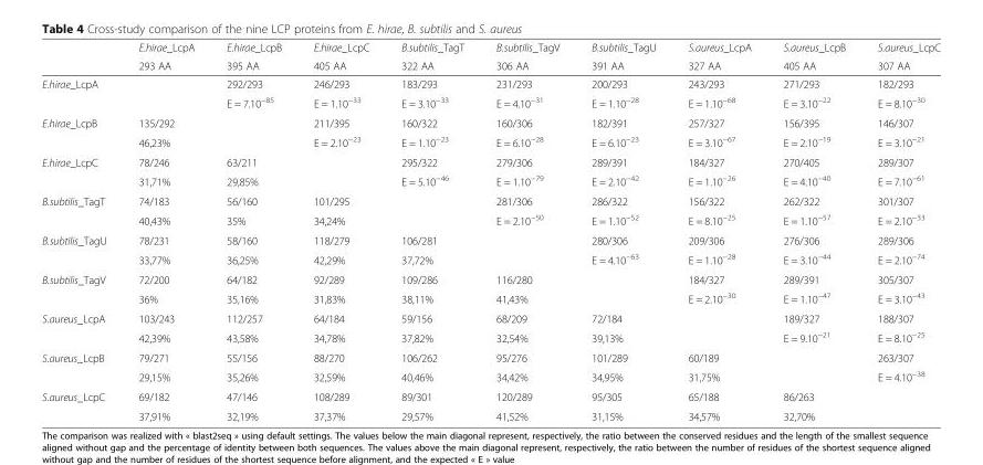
<table><thead><tr><td rowspan="2"></td><td rowspan="2">E.hirae_LcpA 293 AA</td><td rowspan="2">E.hirae_LcpB 395 AA</td><td rowspan="2">E.hirae_LcpC 405 AA</td><td rowspan="2">B.subtilis_TagT 322 AA</td><td rowspan="2">B.subtilis_TagV 306 AA</td><td rowspan="2">B.subtilis_TagU 391 AA</td><td rowspan="2">S.aureus_LcpA 327 AA</td><td rowspan="2">S.aureus_LcpB 405 AA</td><td rowspan="2">S.aureus_LcpC 307 AA</td></tr><tr></tr></thead><tbody><tr><td rowspan="2">E.hirae_LcpA</td><td rowspan="2"></td><td>292/293</td><td>246/293</td><td>183/293</td><td>231/293</td><td>200/293</td><td>243/293</td><td>271/293</td><td>182/293</td></tr><tr><td>E = 7.10<sup>−85</sup></td><td>E = 1.10<sup>−33</sup></td><td>E = 3.10<sup>−33</sup></td><td>E = 4.10<sup>−31</sup></td><td>E = 1.10<sup>−28</sup></td><td>E = 1.10<sup>−68</sup></td><td>E = 3.10<sup>−22</sup></td><td>E = 8.10<sup>−30</sup></td></tr><tr><td rowspan="2">E.hirae_LcpB</td><td>135/292</td><td rowspan="2"></td><td>211/395</td><td>160/322</td><td>160/306</td><td>182/391</td><td>257/327</td><td>156/395</td><td>146/307</td></tr><tr><td>46,23%</td><td>E = 2.10<sup>−23</sup></td><td>E = 1.10<sup>−23</sup></td><td>E = 6.10<sup>−28</sup></td><td>E = 6.10<sup>−23</sup></td><td>E = 3.10<sup>−67</sup></td><td>E = 2.10<sup>−19</sup></td><td>E = 3.10<sup>−21</sup></td></tr><tr><td rowspan="2">E.hirae_LcpC</td><td>78/246</td><td>63/211</td><td rowspan="2"></td><td>295/322</td><td>279/306</td><td>289/391</td><td>184/327</td><td>270/405</td><td>289/307</td></tr><tr><td>31,71%</td><td>29,85%</td><td>E = 5.10<sup>−46</sup></td><td>E = 1.10<sup>−79</sup></td><td>E = 2.10<sup>−42</sup></td><td>E = 1.10<sup>−26</sup></td><td>E = 4.10<sup>−40</sup></td><td>E = 7.10<sup>−61</sup></td></tr><tr><td rowspan="2">B.subtilis_TagT</td><td>74/183</td><td>56/160</td><td>101/295</td><td rowspan="2"></td><td>281/306</td><td>286/322</td><td>156/322</td><td>262/322</td><td>301/307</td></tr><tr><td>40,43%</td><td>35%</td><td>34,24%</td><td>E = 2.10<sup>−50</sup></td><td>E = 1.10<sup>−52</sup></td><td>E = 8.10<sup>−25</sup></td><td>E = 1.10<sup>−57</sup></td><td>E = 2.10<sup>−33</sup></td></tr><tr><td rowspan="2">B.subtilis_TagU</td><td>78/231</td><td>58/160</td><td>118/279</td><td>106/281</td><td rowspan="2"></td><td>280/306</td><td>209/306</td><td>276/306</td><td>289/306</td></tr><tr><td>33,77%</td><td>36,25%</td><td>42,29%</td><td>37,72%</td><td>E = 4.10<sup>−63</sup></td><td>E = 1.10<sup>−28</sup></td><td>E = 3.10<sup>−44</sup></td><td>E = 2.10<sup>−74</sup></td></tr><tr><td rowspan="2">B.subtilis_TagV</td><td>72/200</td><td>64/182</td><td>92/289</td><td>109/286</td><td>116/280</td><td rowspan="2"></td><td>184/327</td><td>289/391</td><td>305/307</td></tr><tr><td>36%</td><td>35,16%</td><td>31,83%</td><td>38,11%</td><td>41,43%</td><td>E = 2.10<sup>−30</sup></td><td>E = 1.10<sup>−47</sup></td><td>E = 3.10<sup>−43</sup></td></tr><tr><td rowspan="2">S.aureus_LcpA</td><td>103/243</td><td>112/257</td><td>64/184</td><td>59/156</td><td>68/209</td><td>72/184</td><td rowspan="2"></td><td>189/327</td><td>188/307</td></tr><tr><td>42,39%</td><td>43,58%</td><td>34,78%</td><td>37,82%</td><td>32,54%</td><td>39,13%</td><td>E = 9.10<sup>−21</sup></td><td>E = 8.10<sup>−25</sup></td></tr><tr><td rowspan="2">S.aureus_LcpB</td><td>79/271</td><td>55/156</td><td>88/270</td><td>106/262</td><td>95/276</td><td>101/289</td><td>60/189</td><td rowspan="2"></td><td>263/307</td></tr><tr><td>29,15%</td><td>35,26%</td><td>32,59%</td><td>40,46%</td><td>34,42%</td><td>34,95%</td><td>31,75%</td><td>E = 4.10<sup>−38</sup></td></tr><tr><td rowspan="2">S.aureus_LcpC</td><td>69/182</td><td>47/146</td><td>108/289</td><td>89/301</td><td>120/289</td><td>95/305</td><td>65/188</td><td>86/263</td><td rowspan="2"></td></tr><tr><td>37,91%</td><td>32,19%</td><td>37,37%</td><td>29,57%</td><td>41,52%</td><td>31,15%</td><td>34,57%</td><td>32,70%</td></tr></tbody></table>